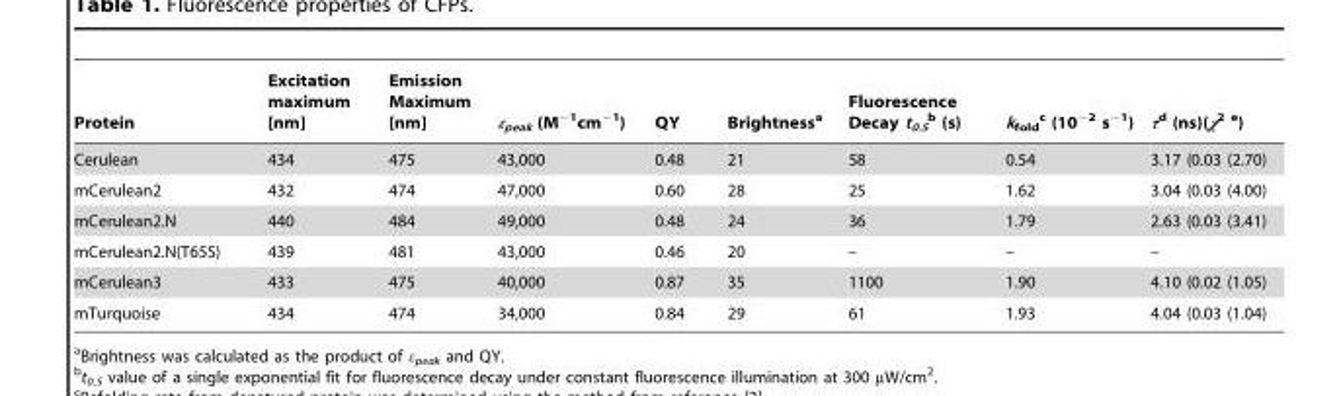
<table><thead><tr><td>Protein</td><td>Excitation maximum [nm]</td><td>Emission Maximum [nm]</td><td>ε<sub>peak</sub> (M<sup>−1</sup>cm<sup>−1</sup>)</td><td>QY</td><td>Brightness<sup>a</sup></td><td>Fluorescence Decay t<sub>0.5</sub> <sup>b</sup> (s)</td><td>k<sub>fold</sub> <sup>c</sup> (10<sup>−2</sup> s<sup>−1</sup>)</td><td>τ<sup>d</sup> (ns)(χ<sup>2</sup> e)</td></tr></thead><tbody><tr><td>Cerulean</td><td>434</td><td>475</td><td>43,000</td><td>0.48</td><td>21</td><td>58</td><td>0.54</td><td>3.17 (0.03 (2.70)</td></tr><tr><td>mCerulean2</td><td>432</td><td>474</td><td>47,000</td><td>0.60</td><td>28</td><td>25</td><td>1.62</td><td>3.04 (0.03 (4.00)</td></tr><tr><td>mCerulean2.N</td><td>440</td><td>484</td><td>49,000</td><td>0.48</td><td>24</td><td>36</td><td>1.79</td><td>2.63 (0.03 (3.41)</td></tr><tr><td>mCerulean2.N(T65S)</td><td>439</td><td>481</td><td>43,000</td><td>0.46</td><td>20</td><td>–</td><td>–</td><td>–</td></tr><tr><td>mCerulean3</td><td>433</td><td>475</td><td>40,000</td><td>0.87</td><td>35</td><td>1100</td><td>1.90</td><td>4.10 (0.02 (1.05)</td></tr><tr><td>mTurquoise</td><td>434</td><td>474</td><td>34,000</td><td>0.84</td><td>29</td><td>61</td><td>1.93</td><td>4.04 (0.03 (1.04)</td></tr></tbody></table>